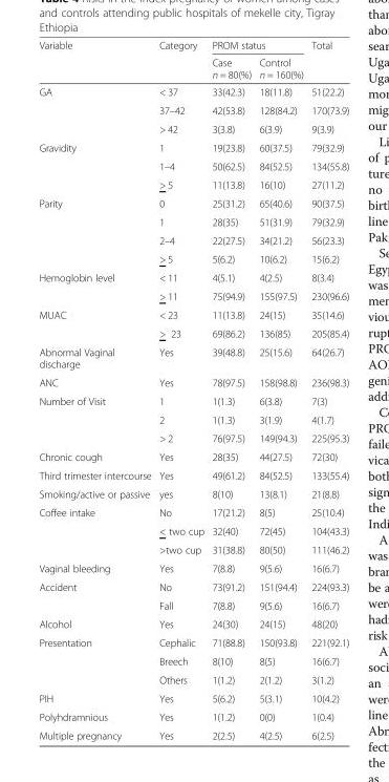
<table><thead><tr><td rowspan="2">Variable</td><td rowspan="2">Category</td><td colspan="2">PROM status</td><td rowspan="2">Total</td></tr><tr><td>Case n = 80(%)</td><td>Control n = 160(%)</td></tr></thead><tbody><tr><td rowspan="3">GA</td><td>&lt; 37</td><td>33(42.3)</td><td>18(11.8)</td><td>51(22.2)</td></tr><tr><td>37–42</td><td>42(53.8)</td><td>128(84.2)</td><td>170(73.9)</td></tr><tr><td>&gt; 42</td><td>3(3.8)</td><td>6(3.9)</td><td>9(3.9)</td></tr><tr><td rowspan="3">Gravidity</td><td>1</td><td>19(23.8)</td><td>60(37.5)</td><td>79(32.9)</td></tr><tr><td>1–4</td><td>50(62.5)</td><td>84(52.5)</td><td>134(55.8)</td></tr><tr><td>&gt; 5</td><td>11(13.8)</td><td>16(10)</td><td>27(11.2)</td></tr><tr><td rowspan="4">Parity</td><td>0</td><td>25(31.2)</td><td>65(40.6)</td><td>90(37.5)</td></tr><tr><td>1</td><td>28(35)</td><td>51(31.9)</td><td>79(32.9)</td></tr><tr><td>2–4</td><td>22(27.5)</td><td>34(21.2)</td><td>56(23.3)</td></tr><tr><td>&gt; 5</td><td>5(6.2)</td><td>10(6.2)</td><td>15(6.2)</td></tr><tr><td rowspan="2">Hemoglobin level</td><td>&lt; 11</td><td>4(5.1)</td><td>4(2.5)</td><td>8(3.4)</td></tr><tr><td>&gt; 11</td><td>75(94.9)</td><td>155(97.5)</td><td>230(96.6)</td></tr><tr><td rowspan="2">MUAC</td><td>&lt; 23</td><td>11(13.8)</td><td>24(15)</td><td>35(14.6)</td></tr><tr><td>&gt; 23</td><td>69(86.2)</td><td>136(85)</td><td>205(85.4)</td></tr><tr><td>Abnormal Vaginal discharge</td><td>Yes</td><td>39(48.8)</td><td>25(15.6)</td><td>64(26.7)</td></tr><tr><td>ANC</td><td>Yes</td><td>78(97.5)</td><td>158(98.8)</td><td>236(98.3)</td></tr><tr><td rowspan="3">Number of Visit</td><td>1</td><td>1(1.3)</td><td>6(3.8)</td><td>7(3)</td></tr><tr><td>2</td><td>1(1.3)</td><td>3(1.9)</td><td>4(1.7)</td></tr><tr><td>&gt; 2</td><td>76(97.5)</td><td>149(94.3)</td><td>225(95.3)</td></tr><tr><td>Chronic cough</td><td>Yes</td><td>28(35)</td><td>44(27.5)</td><td>72(30)</td></tr><tr><td>Third trimester intercourse</td><td>Yes</td><td>49(61.2)</td><td>84(52.5)</td><td>133(55.4)</td></tr><tr><td>Smoking/active or passive</td><td>yes</td><td>8(10)</td><td>13(8.1)</td><td>21(8.8)</td></tr><tr><td rowspan="3">Coffee intake</td><td>No</td><td>17(21.2)</td><td>8(5)</td><td>25(10.4)</td></tr><tr><td>&lt; two cup</td><td>32(40)</td><td>72(45)</td><td>104(43.3)</td></tr><tr><td>&gt;two cup</td><td>31(38.8)</td><td>80(50)</td><td>111(46.2)</td></tr><tr><td>Vaginal bleeding</td><td>Yes</td><td>7(8.8)</td><td>9(5.6)</td><td>16(6.7)</td></tr><tr><td rowspan="2">Accident</td><td>No</td><td>73(91.2)</td><td>151(94.4)</td><td>224(93.3)</td></tr><tr><td>Fall</td><td>7(8.8)</td><td>9(5.6)</td><td>16(6.7)</td></tr><tr><td>Alcohol</td><td>Yes</td><td>24(30)</td><td>24(15)</td><td>48(20)</td></tr><tr><td rowspan="3">Presentation</td><td>Cephalic</td><td>71(88.8)</td><td>150(93.8)</td><td>221(92.1)</td></tr><tr><td>Breech</td><td>8(10)</td><td>8(5)</td><td>16(6.7)</td></tr><tr><td>Others</td><td>1(1.2)</td><td>2(1.2)</td><td>3(1.2)</td></tr><tr><td>PIH</td><td>Yes</td><td>5(6.2)</td><td>5(3.1)</td><td>10(4.2)</td></tr><tr><td>Polyhdramnious</td><td>Yes</td><td>1(1.2)</td><td>0(0)</td><td>1(0.4)</td></tr><tr><td>Multiple pregnancy</td><td>Yes</td><td>2(2.5)</td><td>4(2.5)</td><td>6(2.5)</td></tr></tbody></table>